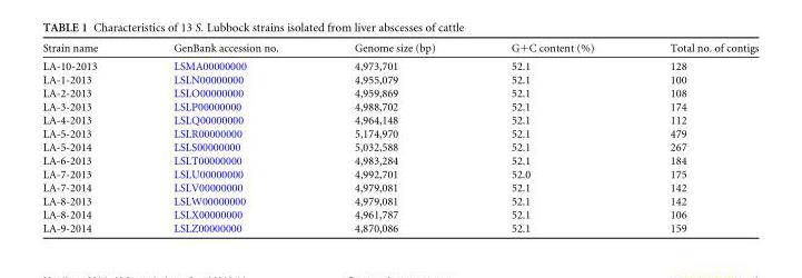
<table><thead><tr><td>Strain name</td><td>GenBank accession no.</td><td>Genome size (bp)</td><td>G+C content (%)</td><td>Total no. of contigs</td></tr></thead><tbody><tr><td>LA-10-2013</td><td>LSMA00000000</td><td>4,973,701</td><td>52.1</td><td>128</td></tr><tr><td>LA-1-2013</td><td>LSLN00000000</td><td>4,955,079</td><td>52.1</td><td>100</td></tr><tr><td>LA-2-2013</td><td>LSLO00000000</td><td>4,959,869</td><td>52.1</td><td>108</td></tr><tr><td>LA-3-2013</td><td>LSLP00000000</td><td>4,988,702</td><td>52.1</td><td>174</td></tr><tr><td>LA-4-2013</td><td>LSLQ00000000</td><td>4,964,148</td><td>52.1</td><td>112</td></tr><tr><td>LA-5-2013</td><td>LSLR00000000</td><td>5,174,970</td><td>52.1</td><td>479</td></tr><tr><td>LA-5-2014</td><td>LSLS00000000</td><td>5,032,588</td><td>52.1</td><td>267</td></tr><tr><td>LA-6-2013</td><td>LSLT00000000</td><td>4,983,284</td><td>52.1</td><td>184</td></tr><tr><td>LA-7-2013</td><td>LSLU00000000</td><td>4,992,701</td><td>52.0</td><td>175</td></tr><tr><td>LA-7-2014</td><td>LSLV00000000</td><td>4,979,081</td><td>52.1</td><td>142</td></tr><tr><td>LA-8-2013</td><td>LSLW00000000</td><td>4,979,081</td><td>52.1</td><td>142</td></tr><tr><td>LA-8-2014</td><td>LSLX00000000</td><td>4,961,787</td><td>52.1</td><td>106</td></tr><tr><td>LA-9-2014</td><td>LSLZ00000000</td><td>4,870,086</td><td>52.1</td><td>159</td></tr></tbody></table>